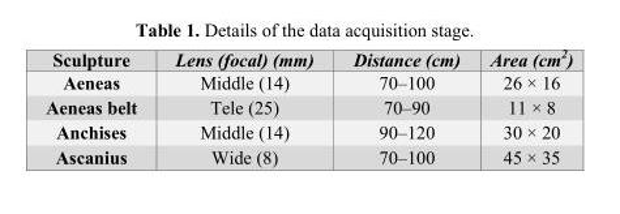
<table><thead><tr><td>Sculpture</td><td>Lens (focal) (mm)</td><td>Distance (cm)</td><td>Area (cm<sup>2</sup>)</td></tr></thead><tbody><tr><td>Aeneas</td><td>Middle (14)</td><td>70–100</td><td>26 × 16</td></tr><tr><td>Aeneas belt</td><td>Tele (25)</td><td>70–90</td><td>11 × 8</td></tr><tr><td>Anchises</td><td>Middle (14)</td><td>90–120</td><td>30 × 20</td></tr><tr><td>Ascanius</td><td>Wide (8)</td><td>70–100</td><td>45 × 35</td></tr></tbody></table>